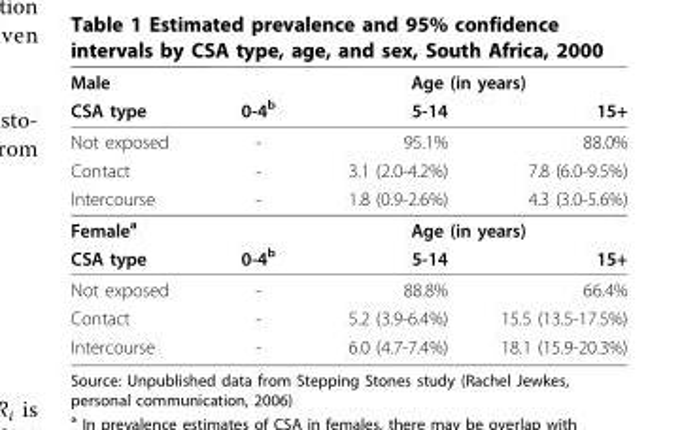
<table><thead><tr><td rowspan="2">Male CSA type</td><td rowspan="2">0-4<sup>b</sup></td><td colspan="2">Age (in years)</td></tr><tr><td>5-14</td><td>15+</td></tr></thead><tbody><tr><td>Not exposed</td><td>-</td><td>95.1%</td><td>88.0%</td></tr><tr><td>Contact</td><td>-</td><td>3.1 (2.0-4.2%)</td><td>7.8 (6.0-9.5%)</td></tr><tr><td>Intercourse</td><td>-</td><td>1.8 (0.9-2.6%)</td><td>4.3 (3.0-5.6%)</td></tr><tr><td>Female<sup>a</sup></td><td></td><td colspan="2">Age (in years)</td></tr><tr><td>CSA type</td><td>0-4<sup>b</sup></td><td>5-14</td><td>15+</td></tr><tr><td>Not exposed</td><td>-</td><td>88.8%</td><td>66.4%</td></tr><tr><td>Contact</td><td>-</td><td>5.2 (3.9-6.4%)</td><td>15.5 (13.5-17.5%)</td></tr><tr><td>Intercourse</td><td>-</td><td>6.0 (4.7-7.4%)</td><td>18.1 (15.9-20.3%)</td></tr></tbody></table>